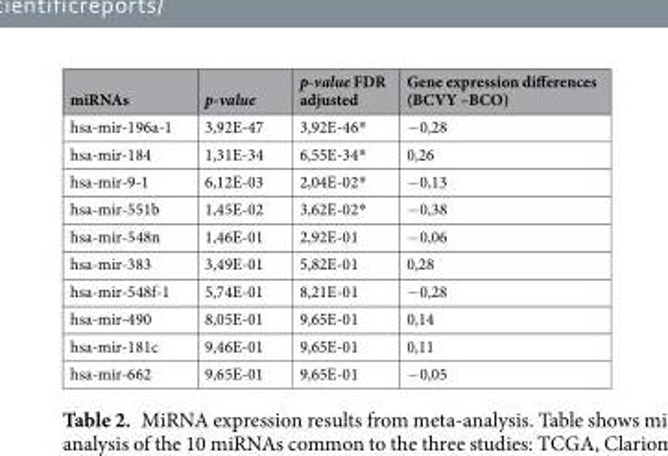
<table><thead><tr><td>miRNAs</td><td>p-value</td><td>p-value FDR adjusted</td><td>Gene expression differences (BCVY –BCO)</td></tr></thead><tbody><tr><td>hsa-mir-196a-1</td><td>3,92E-47</td><td>3,92E-46*</td><td>−0,28</td></tr><tr><td>hsa-mir-184</td><td>1,31E-34</td><td>6,55E-34*</td><td>0,26</td></tr><tr><td>hsa-mir-9-1</td><td>6,12E-03</td><td>2,04E-02*</td><td>−0,13</td></tr><tr><td>hsa-mir-551b</td><td>1,45E-02</td><td>3,62E-02*</td><td>−0,38</td></tr><tr><td>hsa-mir-548n</td><td>1,46E-01</td><td>2,92E-01</td><td>−0,06</td></tr><tr><td>hsa-mir-383</td><td>3,49E-01</td><td>5,82E-01</td><td>0,28</td></tr><tr><td>hsa-mir-548f-1</td><td>5,74E-01</td><td>8,21E-01</td><td>−0,28</td></tr><tr><td>hsa-mir-490</td><td>8,05E-01</td><td>9,65E-01</td><td>0,14</td></tr><tr><td>hsa-mir-181c</td><td>9,46E-01</td><td>9,65E-01</td><td>0,11</td></tr><tr><td>hsa-mir-662</td><td>9,65E-01</td><td>9,65E-01</td><td>−0,05</td></tr></tbody></table>